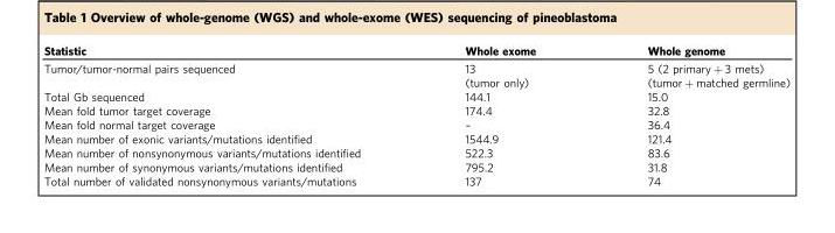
<table><thead><tr><td>Statistic</td><td>Whole exome</td><td>Whole genome</td></tr></thead><tbody><tr><td>Tumor/tumor-normal pairs sequenced</td><td>13 (tumor only)</td><td>5 (2 primary + 3 mets) (tumor + matched germline)</td></tr><tr><td>Total Gb sequenced</td><td>144.1</td><td>15.0</td></tr><tr><td>Mean fold tumor target coverage</td><td>174.4</td><td>32.8</td></tr><tr><td>Mean fold normal target coverage</td><td>–</td><td>36.4</td></tr><tr><td>Mean number of exonic variants/mutations identified</td><td>1544.9</td><td>121.4</td></tr><tr><td>Mean number of nonsynonymous variants/mutations identified</td><td>522.3</td><td>83.6</td></tr><tr><td>Mean number of synonymous variants/mutations identified</td><td>795.2</td><td>31.8</td></tr><tr><td>Total number of validated nonsynonymous variants/mutations</td><td>137</td><td>74</td></tr></tbody></table>